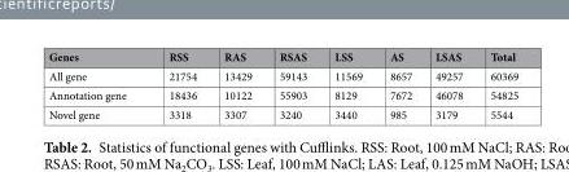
<table><thead><tr><td>Genes</td><td>RSS</td><td>RAS</td><td>RSAS</td><td>LSS</td><td>AS</td><td>LSAS</td><td>Total</td></tr></thead><tbody><tr><td>All gene</td><td>21754</td><td>13429</td><td>59143</td><td>11569</td><td>8657</td><td>49257</td><td>60369</td></tr><tr><td>Annotation gene</td><td>18436</td><td>10122</td><td>55903</td><td>8129</td><td>7672</td><td>46078</td><td>54825</td></tr><tr><td>Novel gene</td><td>3318</td><td>3307</td><td>3240</td><td>3440</td><td>985</td><td>3179</td><td>5544</td></tr></tbody></table>